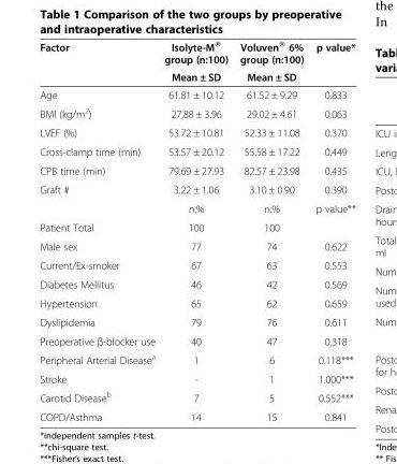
<table><thead><tr><td rowspan="2">Factor</td><td rowspan="2">Isolyte-M® group (n:100) Mean ± SD</td><td rowspan="2">Voluven® 6% group (n:100) Mean ± SD</td><td rowspan="2">p value*</td></tr><tr></tr></thead><tbody><tr><td>Age</td><td>61.81 ± 10.12</td><td>61.52 ± 9.29</td><td>0.833</td></tr><tr><td>BMI (kg/m<sup>2</sup>)</td><td>27.88 ± 3.96</td><td>29.02 ± 4.61</td><td>0.063</td></tr><tr><td>LVEF (%)</td><td>53.72 ± 10.81</td><td>52.33 ± 11.08</td><td>0.370</td></tr><tr><td>Cross-clamp time (min)</td><td>53.57 ± 20.12</td><td>55.58 ± 17.22</td><td>0.449</td></tr><tr><td>CPB time (min)</td><td>79.69 ± 27.93</td><td>82.57 ± 23.98</td><td>0.435</td></tr><tr><td rowspan="2">Graft #</td><td>3.22 ± 1.06</td><td>3.10 ± 0.90</td><td>0.390</td></tr><tr><td>n:%</td><td>n:%</td><td>p value**</td></tr><tr><td>Patient Total</td><td>100</td><td>100</td><td></td></tr><tr><td>Male sex</td><td>77</td><td>74</td><td>0.622</td></tr><tr><td>Current/Ex-smoker</td><td>67</td><td>63</td><td>0.553</td></tr><tr><td>Diabetes Mellitus</td><td>46</td><td>42</td><td>0.569</td></tr><tr><td>Hypertension</td><td>65</td><td>62</td><td>0.659</td></tr><tr><td>Dyslipidemia</td><td>79</td><td>76</td><td>0.611</td></tr><tr><td>Preoperative β-blocker use</td><td>40</td><td>47</td><td>0.318</td></tr><tr><td>Peripheral Arterial Disease<sup>a</sup></td><td>1</td><td>6</td><td>0.118***</td></tr><tr><td>Stroke</td><td>-</td><td>1</td><td>1.000***</td></tr><tr><td>Carotid Disease<sup>b</sup></td><td>7</td><td>5</td><td>0.552***</td></tr><tr><td>COPD/Asthma</td><td>14</td><td>15</td><td>0.841</td></tr></tbody></table>